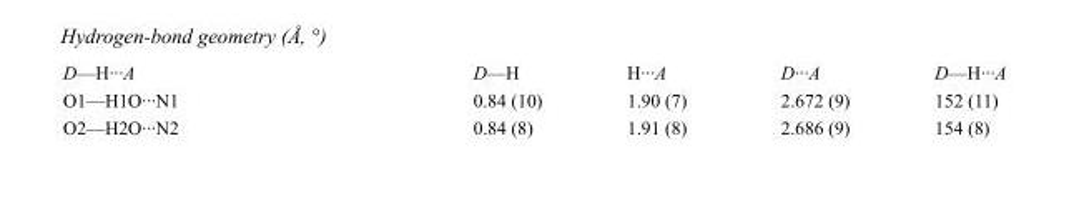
<table><tbody><tr><td>D—H···A</td><td>D—H</td><td>H···A</td><td>D···A</td><td>D—H···A</td></tr><tr><td>O1—H1O···N1</td><td>0.84 (10)</td><td>1.90 (7)</td><td>2.672 (9)</td><td>152 (11)</td></tr><tr><td>O2—H2O···N2</td><td>0.84 (8)</td><td>1.91 (8)</td><td>2.686 (9)</td><td>154 (8)</td></tr></tbody></table>